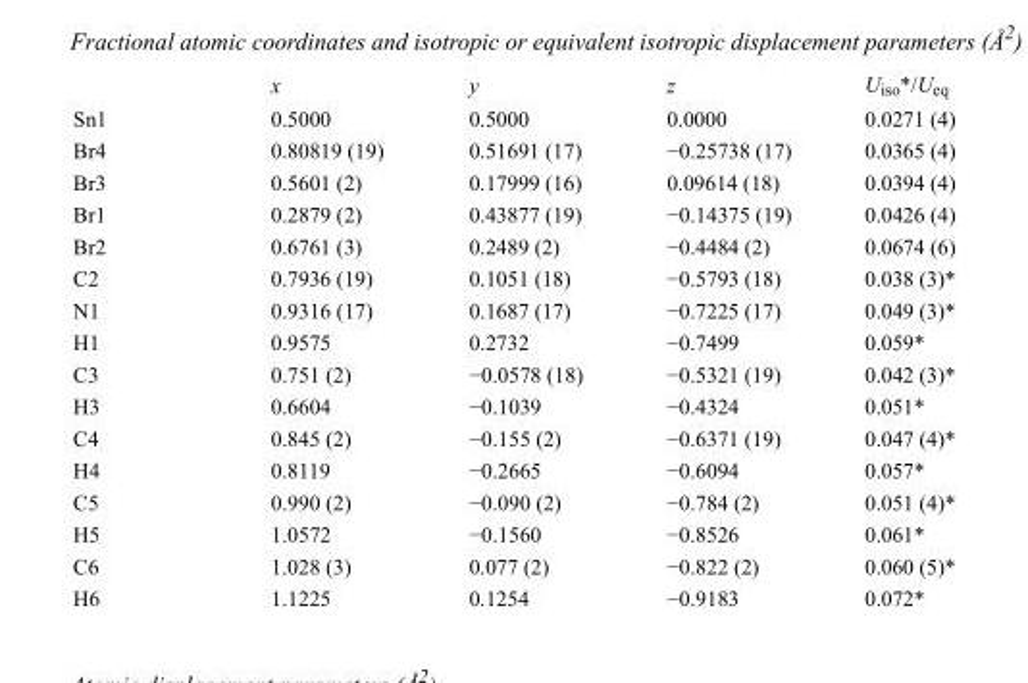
<table><thead><tr><td></td><td>x</td><td>y</td><td>z</td><td>U<sub>iso</sub>*/U<sub>eq</sub></td></tr></thead><tbody><tr><td>Sn1</td><td>0.5000</td><td>0.5000</td><td>0.0000</td><td>0.0271 (4)</td></tr><tr><td>Br4</td><td>0.80819 (19)</td><td>0.51691 (17)</td><td>−0.25738 (17)</td><td>0.0365 (4)</td></tr><tr><td>Br3</td><td>0.5601 (2)</td><td>0.17999 (16)</td><td>0.09614 (18)</td><td>0.0394 (4)</td></tr><tr><td>Br1</td><td>0.2879 (2)</td><td>0.43877 (19)</td><td>−0.14375 (19)</td><td>0.0426 (4)</td></tr><tr><td>Br2</td><td>0.6761 (3)</td><td>0.2489 (2)</td><td>−0.4484 (2)</td><td>0.0674 (6)</td></tr><tr><td>C2</td><td>0.7936 (19)</td><td>0.1051 (18)</td><td>−0.5793 (18)</td><td>0.038 (3)*</td></tr><tr><td>N1</td><td>0.9316 (17)</td><td>0.1687 (17)</td><td>−0.7225 (17)</td><td>0.049 (3)*</td></tr><tr><td>H1</td><td>0.9575</td><td>0.2732</td><td>−0.7499</td><td>0.059*</td></tr><tr><td>C3</td><td>0.751 (2)</td><td>−0.0578 (18)</td><td>−0.5321 (19)</td><td>0.042 (3)*</td></tr><tr><td>H3</td><td>0.6604</td><td>−0.1039</td><td>−0.4324</td><td>0.051*</td></tr><tr><td>C4</td><td>0.845 (2)</td><td>−0.155 (2)</td><td>−0.6371 (19)</td><td>0.047 (4)*</td></tr><tr><td>H4</td><td>0.8119</td><td>−0.2665</td><td>−0.6094</td><td>0.057*</td></tr><tr><td>C5</td><td>0.990 (2)</td><td>−0.090 (2)</td><td>−0.784 (2)</td><td>0.051 (4)*</td></tr><tr><td>H5</td><td>1.0572</td><td>−0.1560</td><td>−0.8526</td><td>0.061*</td></tr><tr><td>C6</td><td>1.028 (3)</td><td>0.077 (2)</td><td>−0.822 (2)</td><td>0.060 (5)*</td></tr><tr><td>H6</td><td>1.1225</td><td>0.1254</td><td>−0.9183</td><td>0.072*</td></tr></tbody></table>